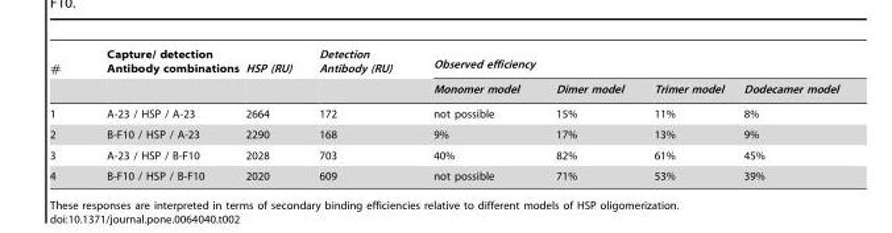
<table><thead><tr><td rowspan="2">#</td><td rowspan="2">Capture/ detection Antibody combinations</td><td rowspan="2">HSP (RU)</td><td rowspan="2">Detection Antibody (RU)</td><td colspan="4">Observed efficiency</td></tr><tr><td>Monomer model</td><td>Dimer model</td><td>Trimer model</td><td>Dodecamer model</td></tr></thead><tbody><tr><td>1</td><td>A-23 / HSP / A-23</td><td>2664</td><td>172</td><td>not possible</td><td>15%</td><td>11%</td><td>8%</td></tr><tr><td>2</td><td>B-F10 / HSP / A-23</td><td>2290</td><td>168</td><td>9%</td><td>17%</td><td>13%</td><td>9%</td></tr><tr><td>3</td><td>A-23 / HSP / B-F10</td><td>2028</td><td>703</td><td>40%</td><td>82%</td><td>61%</td><td>45%</td></tr><tr><td>4</td><td>B-F10 / HSP / B-F10</td><td>2020</td><td>609</td><td>not possible</td><td>71%</td><td>53%</td><td>39%</td></tr></tbody></table>